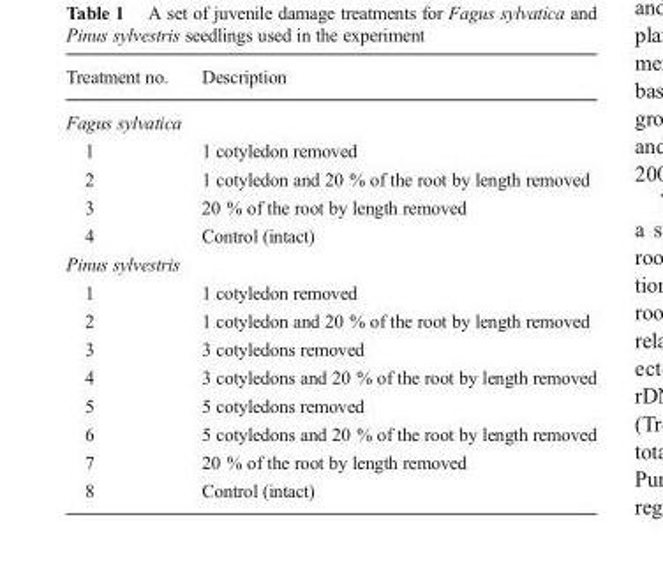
<table><thead><tr><td>Treatment no.</td><td>Description</td></tr></thead><tbody><tr><td colspan="2">Fagus sylvatica</td></tr><tr><td>1</td><td>1 cotyledon removed</td></tr><tr><td>2</td><td>1 cotyledon and 20 % of the root by length removed</td></tr><tr><td>3</td><td>20 % of the root by length removed</td></tr><tr><td>4</td><td>Control (intact)</td></tr><tr><td colspan="2">Pinus sylvestris</td></tr><tr><td>1</td><td>1 cotyledon removed</td></tr><tr><td>2</td><td>1 cotyledon and 20 % of the root by length removed</td></tr><tr><td>3</td><td>3 cotyledons removed</td></tr><tr><td>4</td><td>3 cotyledons and 20 % of the root by length removed</td></tr><tr><td>5</td><td>5 cotyledons removed</td></tr><tr><td>6</td><td>5 cotyledons and 20 % of the root by length removed</td></tr><tr><td>7</td><td>20 % of the root by length removed</td></tr><tr><td>8</td><td>Control (intact)</td></tr></tbody></table>